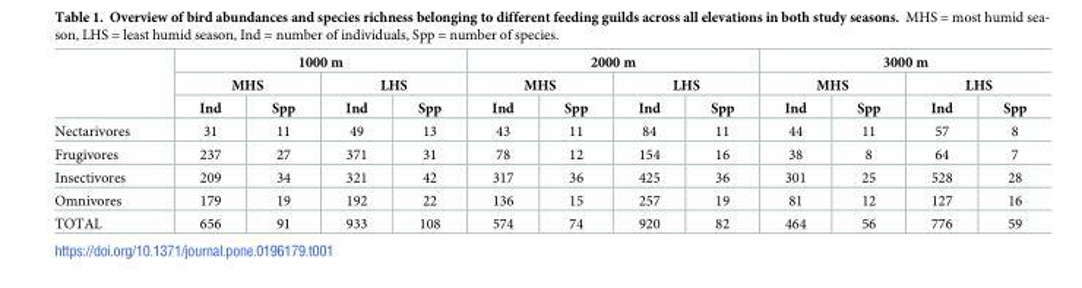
<table><thead><tr><td rowspan="3"></td><td colspan="4">1000 m</td><td colspan="4">2000 m</td><td colspan="4">3000 m</td></tr><tr><td colspan="2">MHS</td><td colspan="2">LHS</td><td colspan="2">MHS</td><td colspan="2">LHS</td><td colspan="2">MHS</td><td colspan="2">LHS</td></tr><tr><td>Ind</td><td>Spp</td><td>Ind</td><td>Spp</td><td>Ind</td><td>Spp</td><td>Ind</td><td>Spp</td><td>Ind</td><td>Spp</td><td>Ind</td><td>Spp</td></tr></thead><tbody><tr><td>Nectarivores</td><td>31</td><td>11</td><td>49</td><td>13</td><td>43</td><td>11</td><td>84</td><td>11</td><td>44</td><td>11</td><td>57</td><td>8</td></tr><tr><td>Frugivores</td><td>237</td><td>27</td><td>371</td><td>31</td><td>78</td><td>12</td><td>154</td><td>16</td><td>38</td><td>8</td><td>64</td><td>7</td></tr><tr><td>Insectivores</td><td>209</td><td>34</td><td>321</td><td>42</td><td>317</td><td>36</td><td>425</td><td>36</td><td>301</td><td>25</td><td>528</td><td>28</td></tr><tr><td>Omnivores</td><td>179</td><td>19</td><td>192</td><td>22</td><td>136</td><td>15</td><td>257</td><td>19</td><td>81</td><td>12</td><td>127</td><td>16</td></tr><tr><td>TOTAL</td><td>656</td><td>91</td><td>933</td><td>108</td><td>574</td><td>74</td><td>920</td><td>82</td><td>464</td><td>56</td><td>776</td><td>59</td></tr></tbody></table>